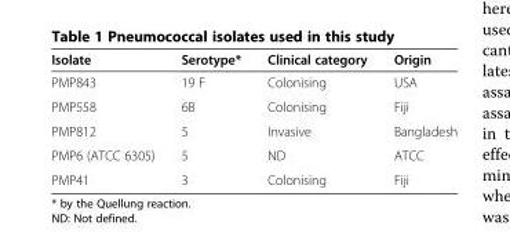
<table><thead><tr><td>Isolate</td><td>Serotype*</td><td>Clinical category</td><td>Origin</td></tr></thead><tbody><tr><td>PMP843</td><td>19 F</td><td>Colonising</td><td>USA</td></tr><tr><td>PMP558</td><td>6B</td><td>Colonising</td><td>Fiji</td></tr><tr><td>PMP812</td><td>5</td><td>Invasive</td><td>Bangladesh</td></tr><tr><td>PMP6 (ATCC 6305)</td><td>5</td><td>ND</td><td>ATCC</td></tr><tr><td>PMP41</td><td>3</td><td>Colonising</td><td>Fiji</td></tr></tbody></table>